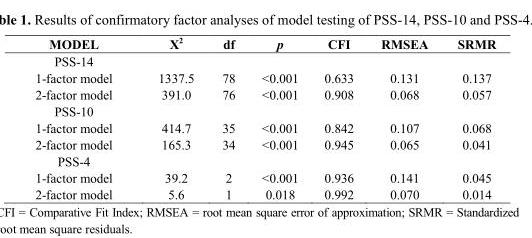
<table><thead><tr><td>MODEL</td><td>X<sup>2</sup></td><td>df</td><td>p</td><td>CFI</td><td>RMSEA</td><td>SRMR</td></tr></thead><tbody><tr><td colspan="7">PSS-14</td></tr><tr><td>1-factor model</td><td>1337.5</td><td>78</td><td>&lt;0.001</td><td>0.633</td><td>0.131</td><td>0.137</td></tr><tr><td>2-factor model</td><td>391.0</td><td>76</td><td>&lt;0.001</td><td>0.908</td><td>0.068</td><td>0.057</td></tr><tr><td colspan="7">PSS-10</td></tr><tr><td>1-factor model</td><td>414.7</td><td>35</td><td>&lt;0.001</td><td>0.842</td><td>0.107</td><td>0.068</td></tr><tr><td>2-factor model</td><td>165.3</td><td>34</td><td>&lt;0.001</td><td>0.945</td><td>0.065</td><td>0.041</td></tr><tr><td colspan="7">PSS-4</td></tr><tr><td>1-factor model</td><td>39.2</td><td>2</td><td>&lt;0.001</td><td>0.936</td><td>0.141</td><td>0.045</td></tr><tr><td>2-factor model</td><td>5.6</td><td>1</td><td>0.018</td><td>0.992</td><td>0.070</td><td>0.014</td></tr></tbody></table>